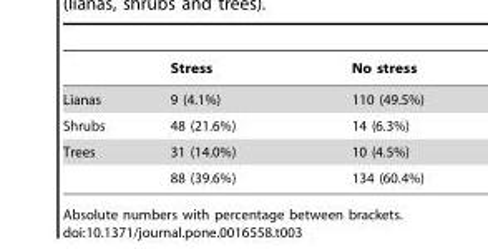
<table><thead><tr><td></td><td>Stress</td><td>No stress</td></tr></thead><tbody><tr><td>Lianas</td><td>9 (4.1%)</td><td>110 (49.5%)</td></tr><tr><td>Shrubs</td><td>48 (21.6%)</td><td>14 (6.3%)</td></tr><tr><td rowspan="2">Trees</td><td>31 (14.0%)</td><td>10 (4.5%)</td></tr><tr><td>88 (39.6%)</td><td>134 (60.4%)</td></tr></tbody></table>